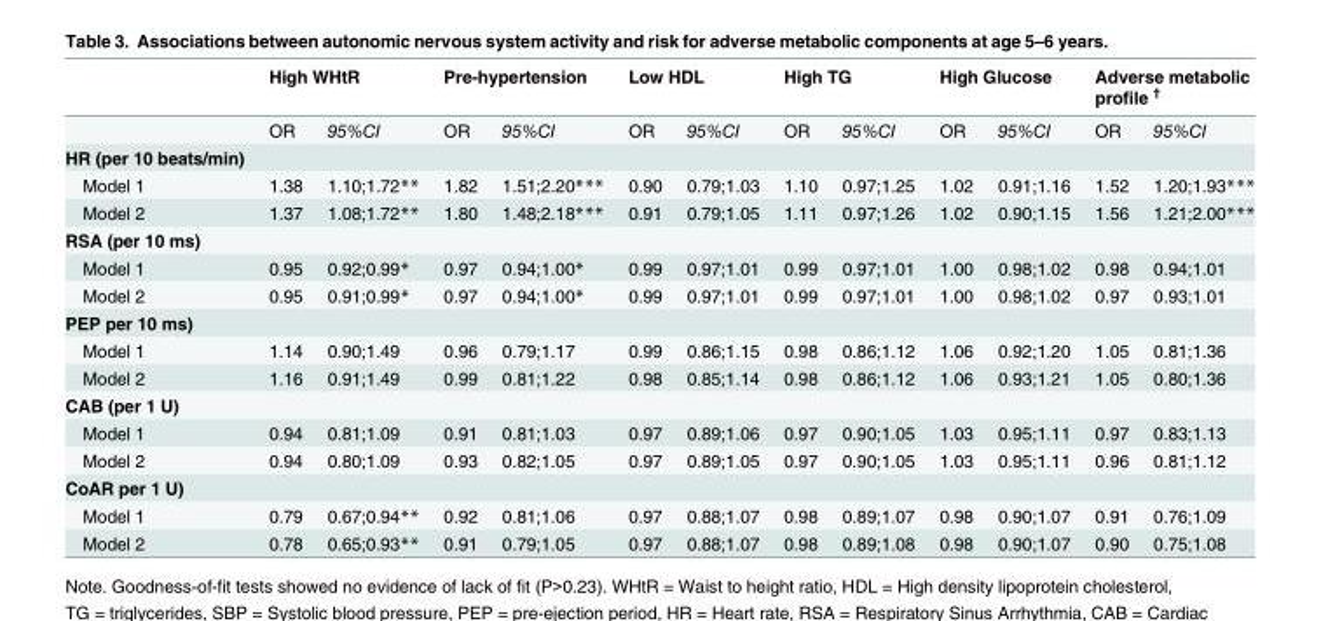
<table><thead><tr><td rowspan="2"></td><td colspan="2">High WHtR</td><td colspan="2">Pre-hypertension</td><td colspan="2">Low HDL</td><td colspan="2">High TG</td><td colspan="2">High Glucose</td><td colspan="2">Adverse metabolic profile <sup>†</sup></td></tr><tr><td>OR</td><td>95%CI</td><td>OR</td><td>95%CI</td><td>OR</td><td>95%CI</td><td>OR</td><td>95%CI</td><td>OR</td><td>95%CI</td><td>OR</td><td>95%CI</td></tr></thead><tbody><tr><td colspan="13">HR (per 10 beats/min)</td></tr><tr><td>Model 1</td><td>1.38</td><td>1.10;1.72**</td><td>1.82</td><td>1.51;2.20***</td><td>0.90</td><td>0.79;1.03</td><td>1.10</td><td>0.97;1.25</td><td>1.02</td><td>0.91;1.16</td><td>1.52</td><td>1.20;1.93***</td></tr><tr><td>Model 2</td><td>1.37</td><td>1.08;1.72**</td><td>1.80</td><td>1.48;2.18***</td><td>0.91</td><td>0.79;1.05</td><td>1.11</td><td>0.97;1.26</td><td>1.02</td><td>0.90;1.15</td><td>1.56</td><td>1.21;2.00***</td></tr><tr><td colspan="13">RSA (per 10 ms)</td></tr><tr><td>Model 1</td><td>0.95</td><td>0.92;0.99*</td><td>0.97</td><td>0.94;1.00*</td><td>0.99</td><td>0.97;1.01</td><td>0.99</td><td>0.97;1.01</td><td>1.00</td><td>0.98;1.02</td><td>0.98</td><td>0.94;1.01</td></tr><tr><td>Model 2</td><td>0.95</td><td>0.91;0.99*</td><td>0.97</td><td>0.94;1.00*</td><td>0.99</td><td>0.97;1.01</td><td>0.99</td><td>0.97;1.01</td><td>1.00</td><td>0.98;1.02</td><td>0.97</td><td>0.93;1.01</td></tr><tr><td colspan="13">PEP per 10 ms)</td></tr><tr><td>Model 1</td><td>1.14</td><td>0.90;1.49</td><td>0.96</td><td>0.79;1.17</td><td>0.99</td><td>0.86;1.15</td><td>0.98</td><td>0.86;1.12</td><td>1.06</td><td>0.92;1.20</td><td>1.05</td><td>0.81;1.36</td></tr><tr><td>Model 2</td><td>1.16</td><td>0.91;1.49</td><td>0.99</td><td>0.81;1.22</td><td>0.98</td><td>0.85;1.14</td><td>0.98</td><td>0.86;1.12</td><td>1.06</td><td>0.93;1.21</td><td>1.05</td><td>0.80;1.36</td></tr><tr><td colspan="13">CAB (per 1 U)</td></tr><tr><td>Model 1</td><td>0.94</td><td>0.81;1.09</td><td>0.91</td><td>0.81;1.03</td><td>0.97</td><td>0.89;1.06</td><td>0.97</td><td>0.90;1.05</td><td>1.03</td><td>0.95;1.11</td><td>0.97</td><td>0.83;1.13</td></tr><tr><td>Model 2</td><td>0.94</td><td>0.80;1.09</td><td>0.93</td><td>0.82;1.05</td><td>0.97</td><td>0.89;1.05</td><td>0.97</td><td>0.90;1.05</td><td>1.03</td><td>0.95;1.11</td><td>0.96</td><td>0.81;1.12</td></tr><tr><td colspan="13">CoAR per 1 U)</td></tr><tr><td>Model 1</td><td>0.79</td><td>0.67;0.94**</td><td>0.92</td><td>0.81;1.06</td><td>0.97</td><td>0.88;1.07</td><td>0.98</td><td>0.89;1.07</td><td>0.98</td><td>0.90;1.07</td><td>0.91</td><td>0.76;1.09</td></tr><tr><td>Model 2</td><td>0.78</td><td>0.65;0.93**</td><td>0.91</td><td>0.79;1.05</td><td>0.97</td><td>0.88;1.07</td><td>0.98</td><td>0.89;1.08</td><td>0.98</td><td>0.90;1.07</td><td>0.90</td><td>0.75;1.08</td></tr></tbody></table>